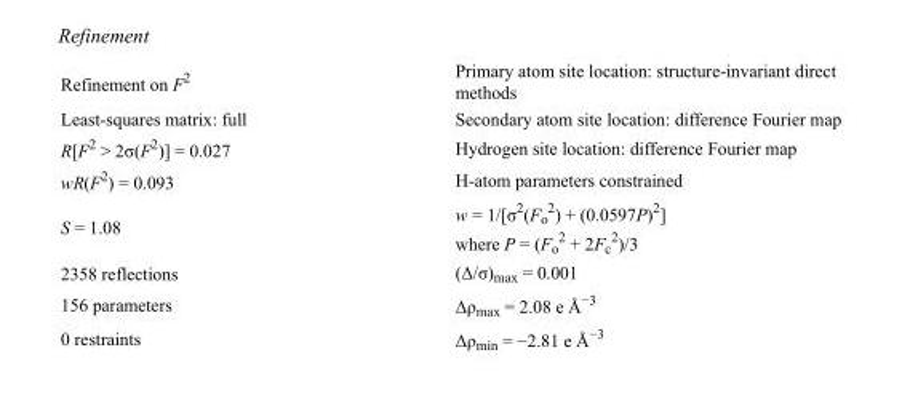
<table><tbody><tr><td>Refinement on F<sup>2</sup></td><td>Primary atom site location: structure-invariant direct methods</td></tr><tr><td>Least-squares matrix: full</td><td>Secondary atom site location: difference Fourier map</td></tr><tr><td>R[F<sup>2</sup> &gt; 2σ(F<sup>2</sup>)] = 0.027</td><td>Hydrogen site location: difference Fourier map</td></tr><tr><td>wR(F<sup>2</sup>) = 0.093</td><td>H-atom parameters constrained</td></tr><tr><td>S = 1.08</td><td>w = 1/[σ<sup>2</sup>(F<sub>o</sub> <sup>2</sup>) + (0.0597P)<sup>2</sup>] where P = (F<sub>o</sub> <sup>2</sup> + 2F<sub>c</sub> <sup>2</sup>)/3</td></tr><tr><td>2358 reflections</td><td>(Δ/σ)<sub>max</sub> = 0.001</td></tr><tr><td>156 parameters</td><td>Δρ<sub>max</sub> = 2.08 e Å<sup>−3</sup></td></tr><tr><td>0 restraints</td><td>Δρ<sub>min</sub> = −2.81 e Å<sup>−3</sup></td></tr></tbody></table>